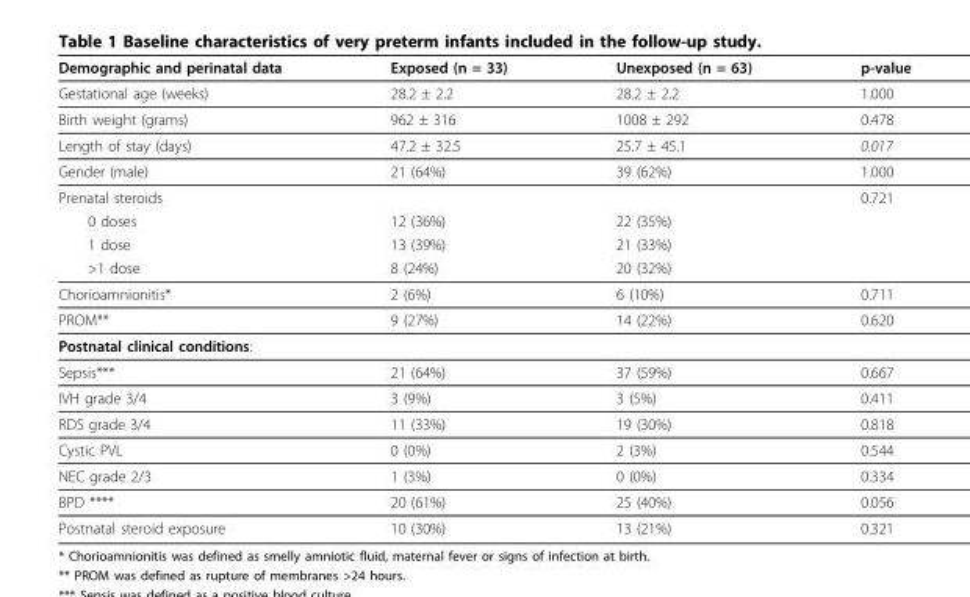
<table><thead><tr><td>Demographic and perinatal data</td><td>Exposed (n = 33)</td><td>Unexposed (n = 63)</td><td>p-value</td></tr></thead><tbody><tr><td>Gestational age (weeks)</td><td>28.2 ± 2.2</td><td>28.2 ± 2.2</td><td>1.000</td></tr><tr><td>Birth weight (grams)</td><td>962 ± 316</td><td>1008 ± 292</td><td>0.478</td></tr><tr><td>Length of stay (days)</td><td>47.2 ± 32.5</td><td>25.7 ± 45.1</td><td>0.017</td></tr><tr><td>Gender (male)</td><td>21 (64%)</td><td>39 (62%)</td><td>1.000</td></tr><tr><td>Prenatal steroids</td><td></td><td></td><td>0.721</td></tr><tr><td>0 doses</td><td>12 (36%)</td><td>22 (35%)</td><td></td></tr><tr><td>1 dose</td><td>13 (39%)</td><td>21 (33%)</td><td></td></tr><tr><td>&gt;1 dose</td><td>8 (24%)</td><td>20 (32%)</td><td></td></tr><tr><td>Chorioamnionitis*</td><td>2 (6%)</td><td>6 (10%)</td><td>0.711</td></tr><tr><td>PROM**</td><td>9 (27%)</td><td>14 (22%)</td><td>0.620</td></tr><tr><td colspan="4">Postnatal clinical conditions:</td></tr><tr><td>Sepsis***</td><td>21 (64%)</td><td>37 (59%)</td><td>0.667</td></tr><tr><td>IVH grade 3/4</td><td>3 (9%)</td><td>3 (5%)</td><td>0.411</td></tr><tr><td>RDS grade 3/4</td><td>11 (33%)</td><td>19 (30%)</td><td>0.818</td></tr><tr><td>Cystic PVL</td><td>0 (0%)</td><td>2 (3%)</td><td>0.544</td></tr><tr><td>NEC grade 2/3</td><td>1 (3%)</td><td>0 (0%)</td><td>0.334</td></tr><tr><td>BPD ****</td><td>20 (61%)</td><td>25 (40%)</td><td>0.056</td></tr><tr><td>Postnatal steroid exposure</td><td>10 (30%)</td><td>13 (21%)</td><td>0.321</td></tr></tbody></table>